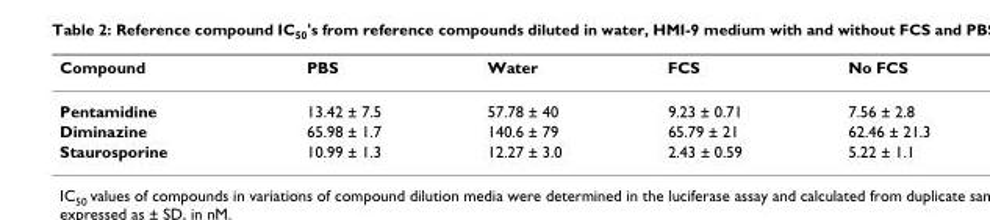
<table><thead><tr><td>Compound</td><td>PBS</td><td>Water</td><td>FCS</td><td>No FCS</td></tr></thead><tbody><tr><td>Pentamidine</td><td>13.42 ± 7.5</td><td>57.78 ± 40</td><td>9.23 ± 0.71</td><td>7.56 ± 2.8</td></tr><tr><td>Diminazine</td><td>65.98 ± 1.7</td><td>140.6 ± 79</td><td>65.79 ± 21</td><td>62.46 ± 21.3</td></tr><tr><td>Staurosporine</td><td>10.99 ± 1.3</td><td>12.27 ± 3.0</td><td>2.43 ± 0.59</td><td>5.22 ± 1.1</td></tr></tbody></table>